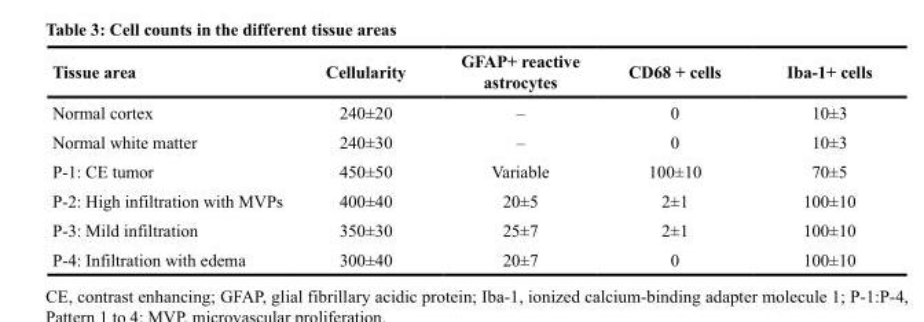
<table><thead><tr><td>Tissue area</td><td>Cellularity</td><td>GFAP+ reactive astrocytes</td><td>CD68 + cells</td><td>Iba-1+ cells</td></tr></thead><tbody><tr><td>Normal cortex</td><td>240±20</td><td>–</td><td>0</td><td>10±3</td></tr><tr><td>Normal white matter</td><td>240±30</td><td>–</td><td>0</td><td>10±3</td></tr><tr><td>P-1: CE tumor</td><td>450±50</td><td>Variable</td><td>100±10</td><td>70±5</td></tr><tr><td>P-2: High infiltration with MVPs</td><td>400±40</td><td>20±5</td><td>2±1</td><td>100±10</td></tr><tr><td>P-3: Mild infiltration</td><td>350±30</td><td>25±7</td><td>2±1</td><td>100±10</td></tr><tr><td>P-4: Infiltration with edema</td><td>300±40</td><td>20±7</td><td>0</td><td>100±10</td></tr></tbody></table>